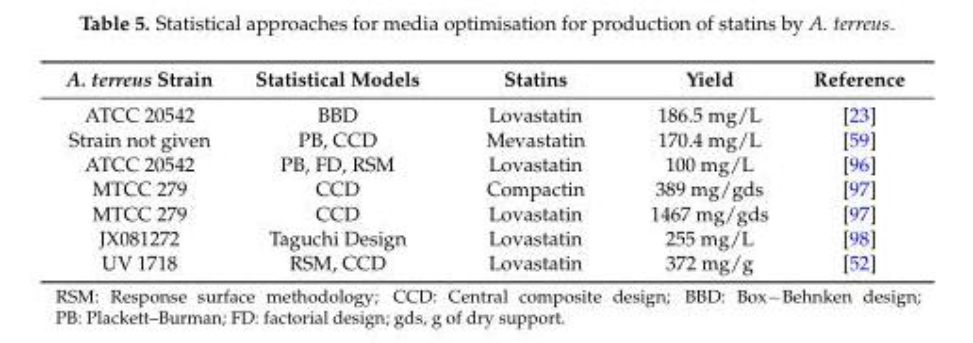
<table><thead><tr><td>A. terreus Strain</td><td>Statistical Models</td><td>Statins</td><td>Yield</td><td>Reference</td></tr></thead><tbody><tr><td>ATCC 20542</td><td>BBD</td><td>Lovastatin</td><td>186.5 mg/L</td><td>[23]</td></tr><tr><td>Strain not given</td><td>PB, CCD</td><td>Mevastatin</td><td>170.4 mg/L</td><td>[59]</td></tr><tr><td>ATCC 20542</td><td>PB, FD, RSM</td><td>Lovastatin</td><td>100 mg/L</td><td>[96]</td></tr><tr><td>MTCC 279</td><td>CCD</td><td>Compactin</td><td>389 mg/gds</td><td>[97]</td></tr><tr><td>MTCC 279</td><td>CCD</td><td>Lovastatin</td><td>1467 mg/gds</td><td>[97]</td></tr><tr><td>JX081272</td><td>Taguchi Design</td><td>Lovastatin</td><td>255 mg/L</td><td>[98]</td></tr><tr><td>UV 1718</td><td>RSM, CCD</td><td>Lovastatin</td><td>372 mg/g</td><td>[52]</td></tr></tbody></table>